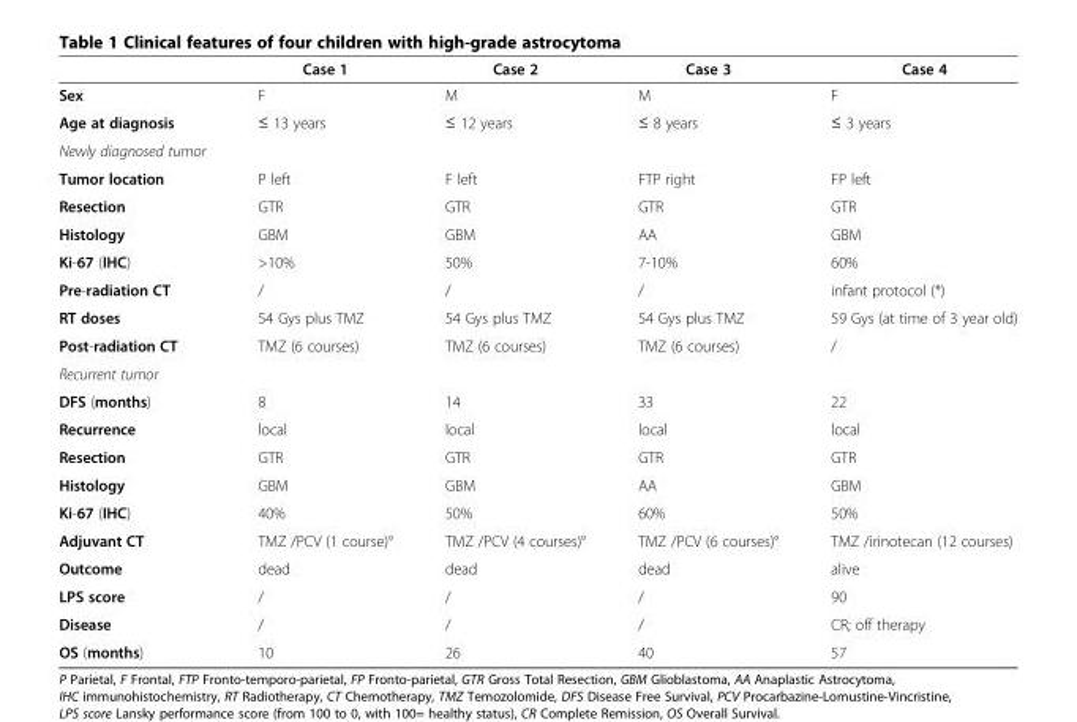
<table><thead><tr><td></td><td>Case 1</td><td>Case 2</td><td>Case 3</td><td>Case 4</td></tr></thead><tbody><tr><td>Sex</td><td>F</td><td>M</td><td>M</td><td>F</td></tr><tr><td>Age at diagnosis</td><td>≤ 13 years</td><td>≤ 12 years</td><td>≤ 8 years</td><td>≤ 3 years</td></tr><tr><td colspan="5">Newly diagnosed tumor</td></tr><tr><td>Tumor location</td><td>P left</td><td>F left</td><td>FTP right</td><td>FP left</td></tr><tr><td>Resection</td><td>GTR</td><td>GTR</td><td>GTR</td><td>GTR</td></tr><tr><td>Histology</td><td>GBM</td><td>GBM</td><td>AA</td><td>GBM</td></tr><tr><td>Ki-67 (IHC)</td><td>&gt;10%</td><td>50%</td><td>7-10%</td><td>60%</td></tr><tr><td>Pre-radiation CT</td><td>/</td><td>/</td><td>/</td><td>infant protocol (*)</td></tr><tr><td>RT doses</td><td>54 Gys plus TMZ</td><td>54 Gys plus TMZ</td><td>54 Gys plus TMZ</td><td>59 Gys (at time of 3 year old)</td></tr><tr><td>Post-radiation CT</td><td>TMZ (6 courses)</td><td>TMZ (6 courses)</td><td>TMZ (6 courses)</td><td>/</td></tr><tr><td colspan="5">Recurrent tumor</td></tr><tr><td>DFS (months)</td><td>8</td><td>14</td><td>33</td><td>22</td></tr><tr><td>Recurrence</td><td>local</td><td>local</td><td>local</td><td>local</td></tr><tr><td>Resection</td><td>GTR</td><td>GTR</td><td>GTR</td><td>GTR</td></tr><tr><td>Histology</td><td>GBM</td><td>GBM</td><td>AA</td><td>GBM</td></tr><tr><td>Ki-67 (IHC)</td><td>40%</td><td>50%</td><td>60%</td><td>50%</td></tr><tr><td>Adjuvant CT</td><td>TMZ /PCV (1 course)°</td><td>TMZ /PCV (4 courses)°</td><td>TMZ /PCV (6 courses)°</td><td>TMZ /irinotecan (12 courses)</td></tr><tr><td>Outcome</td><td>dead</td><td>dead</td><td>dead</td><td>alive</td></tr><tr><td>LPS score</td><td>/</td><td>/</td><td>/</td><td>90</td></tr><tr><td>Disease</td><td>/</td><td>/</td><td>/</td><td>CR; off therapy</td></tr><tr><td>OS (months)</td><td>10</td><td>26</td><td>40</td><td>57</td></tr></tbody></table>